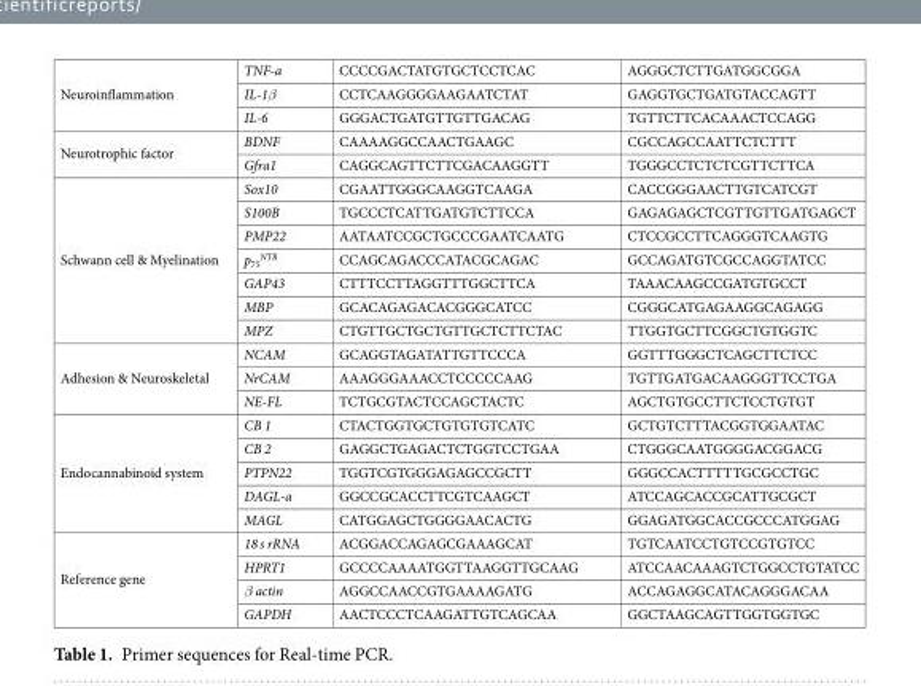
<table><tbody><tr><td rowspan="3">Neuroinflammation</td><td>TNF-a</td><td>CCCCGACTATGTGCTCCTCAC</td><td>AGGGCTCTTGATGGCGGA</td></tr><tr><td>IL-1β</td><td>CCTCAAGGGGAAGAATCTAT</td><td>GAGGTGCTGATGTACCAGTT</td></tr><tr><td>IL-6</td><td>GGGACTGATGTTGTTGACAG</td><td>TGTTCTTCACAAACTCCAGG</td></tr><tr><td rowspan="2">Neurotrophic factor</td><td>BDNF</td><td>CAAAAGGCCAACTGAAGC</td><td>CGCCAGCCAATTCTCTTT</td></tr><tr><td>Gfra1</td><td>CAGGCAGTTCTTCGACAAGGTT</td><td>TGGGCCTCTCTCGTTCTTCA</td></tr><tr><td rowspan="7">Schwann cell &amp; Myelination</td><td>Sox10</td><td>CGAATTGGGCAAGGTCAAGA</td><td>CACCGGGAACTTGTCATCGT</td></tr><tr><td>S100B</td><td>TGCCCTCATTGATGTCTTCCA</td><td>GAGAGAGCTCGTTGTTGATGAGCT</td></tr><tr><td>PMP22</td><td>AATAATCCGCTGCCCGAATCAATG</td><td>CTCCGCCTTCAGGGTCAAGTG</td></tr><tr><td>p<sub>75</sub> <sup>NTR</sup></td><td>CCAGCAGACCCATACGCAGAC</td><td>GCCAGATGTCGCCAGGTATCC</td></tr><tr><td>GAP43</td><td>CTTTCCTTAGGTTTGGCTTCA</td><td>TAAACAAGCCGATGTGCCT</td></tr><tr><td>MBP</td><td>GCACAGAGACACGGGCATCC</td><td>CGGGCATGAGAAGGCAGAGG</td></tr><tr><td>MPZ</td><td>CTGTTGCTGCTGTTGCTCTTCTAC</td><td>TTGGTGCTTCGGCTGTGGTC</td></tr><tr><td rowspan="3">Adhesion &amp; Neuroskeletal</td><td>NCAM</td><td>GCAGGTAGATATTGTTCCCA</td><td>GGTTTGGGCTCAGCTTCTCC</td></tr><tr><td>NrCAM</td><td>AAAGGGAAACCTCCCCCAAG</td><td>TGTTGATGACAAGGGTTCCTGA</td></tr><tr><td>NE-FL</td><td>TCTGCGTACTCCAGCTACTC</td><td>AGCTGTGCCTTCTCCTGTGT</td></tr><tr><td rowspan="5">Endocannabinoid system</td><td>CB 1</td><td>CTACTGGTGCTGTGTGTCATC</td><td>GCTGTCTTTACGGTGGAATAC</td></tr><tr><td>CB 2</td><td>GAGGCTGAGACTCTGGTCCTGAA</td><td>CTGGGCAATGGGGACGGACG</td></tr><tr><td>PTPN22</td><td>TGGTCGTGGGAGAGCCGCTT</td><td>GGGCCACTTTTTGCGCCTGC</td></tr><tr><td>DAGL-a</td><td>GGCCGCACCTTCGTCAAGCT</td><td>ATCCAGCACCGCATTGCGCT</td></tr><tr><td>MAGL</td><td>CATGGAGCTGGGGAACACTG</td><td>GGAGATGGCACCGCCCATGGAG</td></tr><tr><td rowspan="4">Reference gene</td><td>18 s rRNA</td><td>ACGGACCAGAGCGAAAGCAT</td><td>TGTCAATCCTGTCCGTGTCC</td></tr><tr><td>HPRT1</td><td>GCCCCAAAATGGTTAAGGTTGCAAG</td><td>ATCCAACAAAGTCTGGCCTGTATCC</td></tr><tr><td>β actin</td><td>AGGCCAACCGTGAAAAGATG</td><td>ACCAGAGGCATACAGGGACAA</td></tr><tr><td>GAPDH</td><td>AACTCCCTCAAGATTGTCAGCAA</td><td>GGCTAAGCAGTTGGTGGTGC</td></tr></tbody></table>